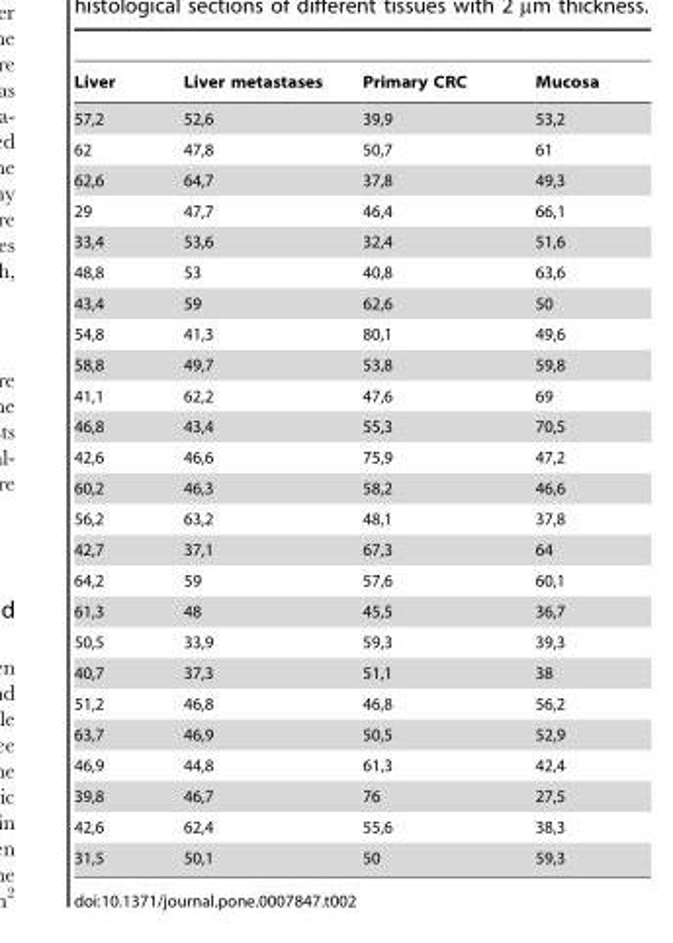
<table><thead><tr><td>Liver</td><td>Liver metastases</td><td>Primary CRC</td><td>Mucosa</td></tr></thead><tbody><tr><td>57,2</td><td>52,6</td><td>39,9</td><td>53,2</td></tr><tr><td>62</td><td>47,8</td><td>50,7</td><td>61</td></tr><tr><td>62,6</td><td>64,7</td><td>37,8</td><td>49,3</td></tr><tr><td>29</td><td>47,7</td><td>46,4</td><td>66,1</td></tr><tr><td>33,4</td><td>53,6</td><td>32,4</td><td>51,6</td></tr><tr><td>48,8</td><td>53</td><td>40,8</td><td>63,6</td></tr><tr><td>43,4</td><td>59</td><td>62,6</td><td>50</td></tr><tr><td>54,8</td><td>41,3</td><td>80,1</td><td>49,6</td></tr><tr><td>58,8</td><td>49,7</td><td>53,8</td><td>59,8</td></tr><tr><td>41,1</td><td>62,2</td><td>47,6</td><td>69</td></tr><tr><td>46,8</td><td>43,4</td><td>55,3</td><td>70,5</td></tr><tr><td>42,6</td><td>46,6</td><td>75,9</td><td>47,2</td></tr><tr><td>60,2</td><td>46,3</td><td>58,2</td><td>46,6</td></tr><tr><td>56,2</td><td>63,2</td><td>48,1</td><td>37,8</td></tr><tr><td>42,7</td><td>37,1</td><td>67,3</td><td>64</td></tr><tr><td>64,2</td><td>59</td><td>57,6</td><td>60,1</td></tr><tr><td>61,3</td><td>48</td><td>45,5</td><td>36,7</td></tr><tr><td>50,5</td><td>33,9</td><td>59,3</td><td>39,3</td></tr><tr><td>40,7</td><td>37,3</td><td>51,1</td><td>38</td></tr><tr><td>51,2</td><td>46,8</td><td>46,8</td><td>56,2</td></tr><tr><td>63,7</td><td>46,9</td><td>50,5</td><td>52,9</td></tr><tr><td>46,9</td><td>44,8</td><td>61,3</td><td>42,4</td></tr><tr><td>39,8</td><td>46,7</td><td>76</td><td>27,5</td></tr><tr><td>42,6</td><td>62,4</td><td>55,6</td><td>38,3</td></tr><tr><td>31,5</td><td>50,1</td><td>50</td><td>59,3</td></tr></tbody></table>